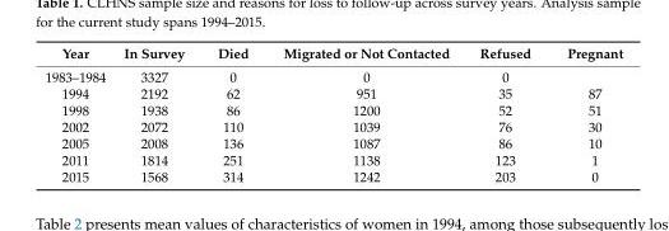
<table><thead><tr><td>Year</td><td>In Survey</td><td>Died</td><td>Migrated or Not Contacted</td><td>Refused</td><td>Pregnant</td></tr></thead><tbody><tr><td>1983–1984</td><td>3327</td><td>0</td><td>0</td><td>0</td><td></td></tr><tr><td>1994</td><td>2192</td><td>62</td><td>951</td><td>35</td><td>87</td></tr><tr><td>1998</td><td>1938</td><td>86</td><td>1200</td><td>52</td><td>51</td></tr><tr><td>2002</td><td>2072</td><td>110</td><td>1039</td><td>76</td><td>30</td></tr><tr><td>2005</td><td>2008</td><td>136</td><td>1087</td><td>86</td><td>10</td></tr><tr><td>2011</td><td>1814</td><td>251</td><td>1138</td><td>123</td><td>1</td></tr><tr><td>2015</td><td>1568</td><td>314</td><td>1242</td><td>203</td><td>0</td></tr></tbody></table>